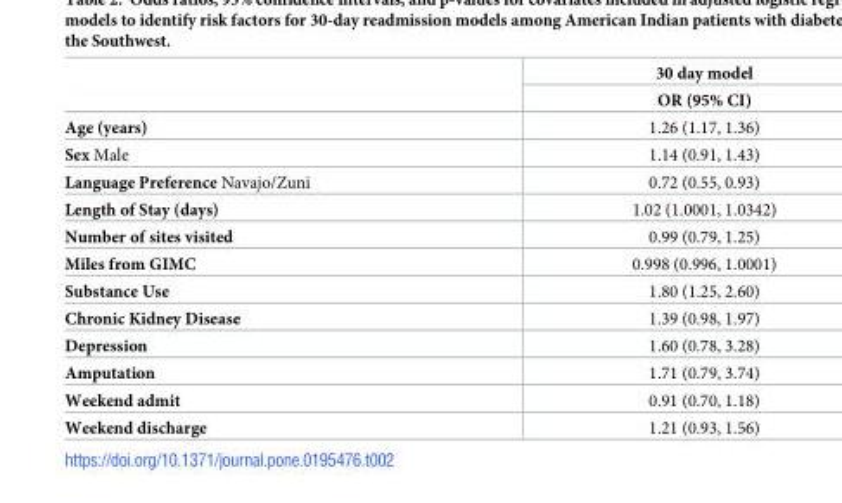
<table><thead><tr><td rowspan="2"></td><td rowspan="2">30 day model OR (95% CI)</td></tr><tr></tr></thead><tbody><tr><td>Age (years)</td><td>1.26 (1.17, 1.36)</td></tr><tr><td>Sex Male</td><td>1.14 (0.91, 1.43)</td></tr><tr><td>Language Preference Navajo/Zuni</td><td>0.72 (0.55, 0.93)</td></tr><tr><td>Length of Stay (days)</td><td>1.02 (1.0001, 1.0342)</td></tr><tr><td>Number of sites visited</td><td>0.99 (0.79, 1.25)</td></tr><tr><td>Miles from GIMC</td><td>0.998 (0.996, 1.0001)</td></tr><tr><td>Substance Use</td><td>1.80 (1.25, 2.60)</td></tr><tr><td>Chronic Kidney Disease</td><td>1.39 (0.98, 1.97)</td></tr><tr><td>Depression</td><td>1.60 (0.78, 3.28)</td></tr><tr><td>Amputation</td><td>1.71 (0.79, 3.74)</td></tr><tr><td>Weekend admit</td><td>0.91 (0.70, 1.18)</td></tr><tr><td>Weekend discharge</td><td>1.21 (0.93, 1.56)</td></tr></tbody></table>